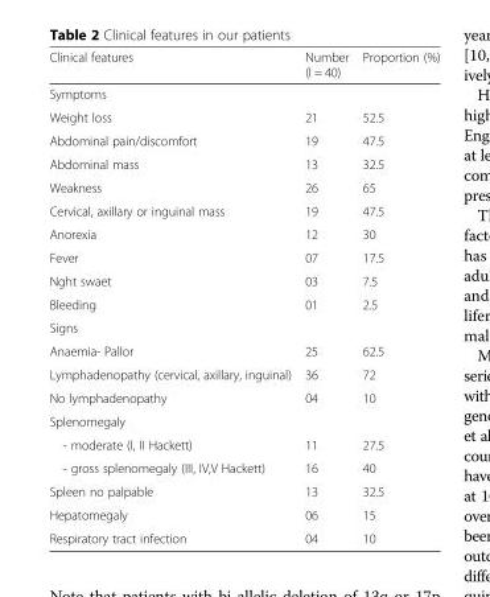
<table><thead><tr><td>Clinical features</td><td>Number (I = 40)</td><td>Proportion (%)</td></tr></thead><tbody><tr><td colspan="3">Symptoms</td></tr><tr><td>Weight loss</td><td>21</td><td>52.5</td></tr><tr><td>Abdominal pain/discomfort</td><td>19</td><td>47.5</td></tr><tr><td>Abdominal mass</td><td>13</td><td>32.5</td></tr><tr><td>Weakness</td><td>26</td><td>65</td></tr><tr><td>Cervical, axillary or inguinal mass</td><td>19</td><td>47.5</td></tr><tr><td>Anorexia</td><td>12</td><td>30</td></tr><tr><td>Fever</td><td>07</td><td>17.5</td></tr><tr><td>Nght swaet</td><td>03</td><td>7.5</td></tr><tr><td>Bleeding</td><td>01</td><td>2.5</td></tr><tr><td colspan="3">Signs</td></tr><tr><td>Anaemia- Pallor</td><td>25</td><td>62.5</td></tr><tr><td>Lymphadenopathy (cervical, axillary, inguinal)</td><td>36</td><td>72</td></tr><tr><td>No lymphadenopathy</td><td>04</td><td>10</td></tr><tr><td colspan="3">Splenomegaly</td></tr><tr><td>- moderate (I, II Hackett)</td><td>11</td><td>27.5</td></tr><tr><td>- gross splenomegaly (III, IV,V Hackett)</td><td>16</td><td>40</td></tr><tr><td>Spleen no palpable</td><td>13</td><td>32.5</td></tr><tr><td>Hepatomegaly</td><td>06</td><td>15</td></tr><tr><td>Respiratory tract infection</td><td>04</td><td>10</td></tr></tbody></table>